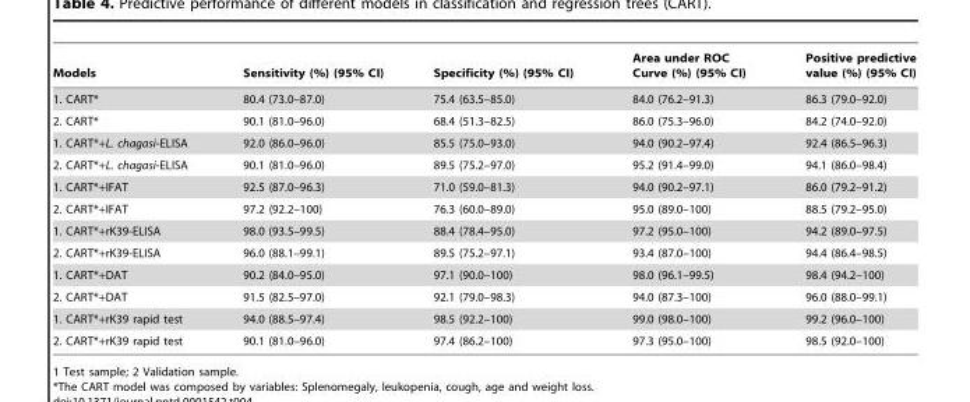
<table><thead><tr><td>Models</td><td>Sensitivity (%) (95% CI)</td><td>Specificity (%) (95% CI)</td><td>Area under ROC Curve (%) (95% CI)</td><td>Positive predictive value (%) (95% CI)</td></tr></thead><tbody><tr><td>1. CART*</td><td>80.4 (73.0–87.0)</td><td>75.4 (63.5–85.0)</td><td>84.0 (76.2–91.3)</td><td>86.3 (79.0–92.0)</td></tr><tr><td>2. CART*</td><td>90.1 (81.0–96.0)</td><td>68.4 (51.3–82.5)</td><td>86.0 (75.3–96.0)</td><td>84.2 (74.0–92.0)</td></tr><tr><td>1. CART*+L. chagasi-ELISA</td><td>92.0 (86.0–96.0)</td><td>85.5 (75.0–93.0)</td><td>94.0 (90.2–97.4)</td><td>92.4 (86.5–96.3)</td></tr><tr><td>2. CART*+L. chagasi-ELISA</td><td>90.1 (81.0–96.0)</td><td>89.5 (75.2–97.0)</td><td>95.2 (91.4–99.0)</td><td>94.1 (86.0–98.4)</td></tr><tr><td>1. CART*+IFAT</td><td>92.5 (87.0–96.3)</td><td>71.0 (59.0–81.3)</td><td>94.0 (90.2–97.1)</td><td>86.0 (79.2–91.2)</td></tr><tr><td>2. CART*+IFAT</td><td>97.2 (92.2–100)</td><td>76.3 (60.0–89.0)</td><td>95.0 (89.0–100)</td><td>88.5 (79.2–95.0)</td></tr><tr><td>1. CART*+rK39-ELISA</td><td>98.0 (93.5–99.5)</td><td>88.4 (78.4–95.0)</td><td>97.2 (95.0–100)</td><td>94.2 (89.0–97.5)</td></tr><tr><td>2. CART*+rK39-ELISA</td><td>96.0 (88.1–99.1)</td><td>89.5 (75.2–97.1)</td><td>93.4 (87.0–100)</td><td>94.4 (86.4–98.5)</td></tr><tr><td>1. CART*+DAT</td><td>90.2 (84.0–95.0)</td><td>97.1 (90.0–100)</td><td>98.0 (96.1–99.5)</td><td>98.4 (94.2–100)</td></tr><tr><td>2. CART*+DAT</td><td>91.5 (82.5–97.0)</td><td>92.1 (79.0–98.3)</td><td>94.0 (87.3–100)</td><td>96.0 (88.0–99.1)</td></tr><tr><td>1. CART*+rK39 rapid test</td><td>94.0 (88.5–97.4)</td><td>98.5 (92.2–100)</td><td>99.0 (98.0–100)</td><td>99.2 (96.0–100)</td></tr><tr><td>2. CART*+rK39 rapid test</td><td>90.1 (81.0–96.0)</td><td>97.4 (86.2–100)</td><td>97.3 (95.0–100)</td><td>98.5 (92.0–100)</td></tr></tbody></table>